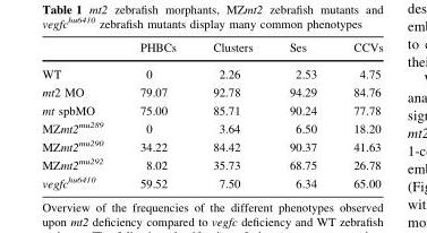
<table><thead><tr><td></td><td>PHBCs</td><td>Clusters</td><td>Ses</td><td>CCVs</td></tr></thead><tbody><tr><td>WT</td><td>0</td><td>2.26</td><td>2.53</td><td>4.75</td></tr><tr><td>mt2 MO</td><td>79.07</td><td>92.78</td><td>94.29</td><td>84.76</td></tr><tr><td>mt spbMO</td><td>75.00</td><td>85.71</td><td>90.24</td><td>77.78</td></tr><tr><td>MZmt2<sup>mu289</sup></td><td>0</td><td>3.64</td><td>6.50</td><td>18.20</td></tr><tr><td>MZmt2<sup>mu290</sup></td><td>34.22</td><td>84.42</td><td>90.37</td><td>41.63</td></tr><tr><td>MZmt2<sup>mu292</sup></td><td>8.02</td><td>35.73</td><td>68.75</td><td>26.78</td></tr><tr><td>vegfc<sup>hu6410</sup></td><td>59.52</td><td>7.50</td><td>6.34</td><td>65.00</td></tr></tbody></table>